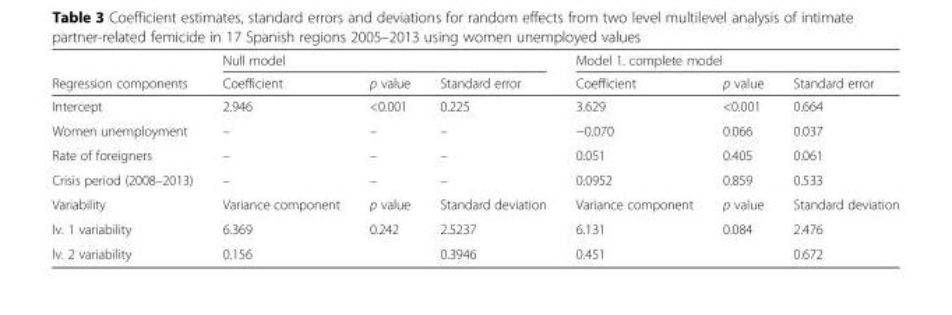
<table><thead><tr><td rowspan="2">Regression components</td><td colspan="3">Null model</td><td colspan="3">Model 1. complete model</td></tr><tr><td>Coefficient</td><td>p value</td><td>Standard error</td><td>Coefficient</td><td>p value</td><td>Standard error</td></tr></thead><tbody><tr><td>Intercept</td><td>2.946</td><td>&lt;0.001</td><td>0.225</td><td>3.629</td><td>&lt;0.001</td><td>0.664</td></tr><tr><td>Women unemployment</td><td>–</td><td>–</td><td>–</td><td>−0.070</td><td>0.066</td><td>0.037</td></tr><tr><td>Rate of foreigners</td><td>–</td><td>–</td><td>–</td><td>0.051</td><td>0.405</td><td>0.061</td></tr><tr><td>Crisis period (2008–2013)</td><td>–</td><td>–</td><td>–</td><td>0.0952</td><td>0.859</td><td>0.533</td></tr><tr><td>Variability</td><td>Variance component</td><td>p value</td><td>Standard deviation</td><td>Variance component</td><td>p value</td><td>Standard deviation</td></tr><tr><td>lv. 1 variability</td><td>6.369</td><td rowspan="2">0.242</td><td>2.5237</td><td>6.131</td><td rowspan="2">0.084</td><td>2.476</td></tr><tr><td>lv. 2 variability</td><td>0.156</td><td>0.3946</td><td>0.451</td><td>0.672</td></tr></tbody></table>